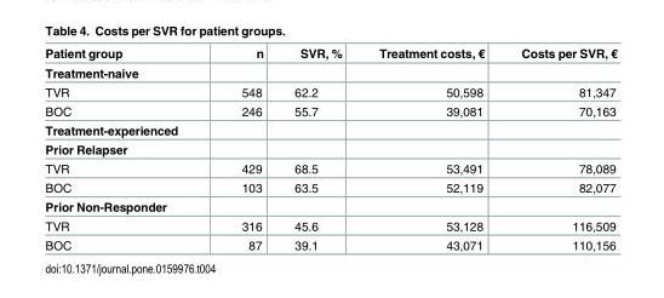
<table><thead><tr><td>Patient group</td><td>n</td><td>SVR, %</td><td>Treatment costs, €</td><td>Costs per SVR, €</td></tr></thead><tbody><tr><td colspan="5">Treatment-naive</td></tr><tr><td>TVR</td><td>548</td><td>62.2</td><td>50,598</td><td>81,347</td></tr><tr><td>BOC</td><td>246</td><td>55.7</td><td>39,081</td><td>70,163</td></tr><tr><td colspan="5">Treatment-experienced</td></tr><tr><td colspan="5">Prior Relapser</td></tr><tr><td>TVR</td><td>429</td><td>68.5</td><td>53,491</td><td>78,089</td></tr><tr><td>BOC</td><td>103</td><td>63.5</td><td>52,119</td><td>82,077</td></tr><tr><td colspan="5">Prior Non-Responder</td></tr><tr><td>TVR</td><td>316</td><td>45.6</td><td>53,128</td><td>116,509</td></tr><tr><td>BOC</td><td>87</td><td>39.1</td><td>43,071</td><td>110,156</td></tr></tbody></table>